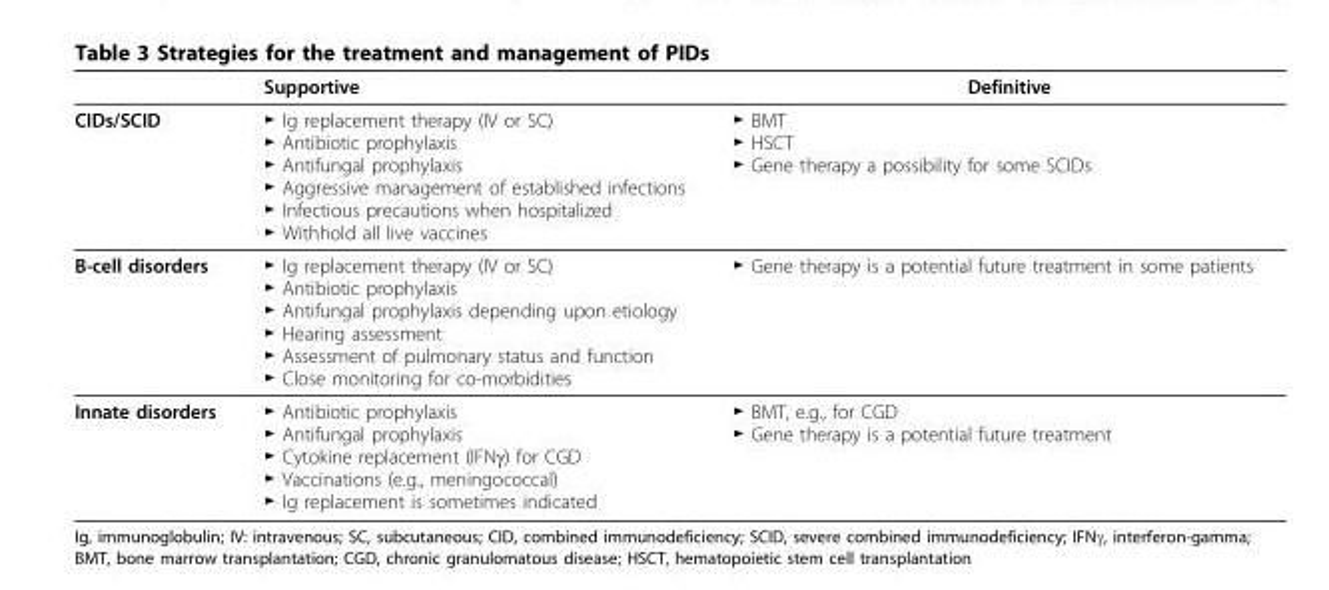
<table><thead><tr><td></td><td>Supportive</td><td>Definitive</td></tr></thead><tbody><tr><td>CIDs/SCID</td><td>► Ig replacement therapy (IV or SC) ► Antibiotic prophylaxis ► Antifungal prophylaxis ► Aggressive management of established infections ► Infectious precautions when hospitalized ► Withhold all live vaccines</td><td>► BMT ► HSCT ► Gene therapy a possibility for some SCIDs</td></tr><tr><td>B-cell disorders</td><td>► Ig replacement therapy (IV or SC) ► Antibiotic prophylaxis ► Antifungal prophylaxis depending upon etiology ► Hearing assessment ► Assessment of pulmonary status and function ► Close monitoring for co-morbidities</td><td>► Gene therapy is a potential future treatment in some patients</td></tr><tr><td>Innate disorders</td><td>► Antibiotic prophylaxis ► Antifungal prophylaxis ► Cytokine replacement (IFNγ) for CGD ► Vaccinations (e.g., meningococcal) ► Ig replacement is sometimes indicated</td><td>► BMT, e.g., for CGD ► Gene therapy is a potential future treatment</td></tr></tbody></table>